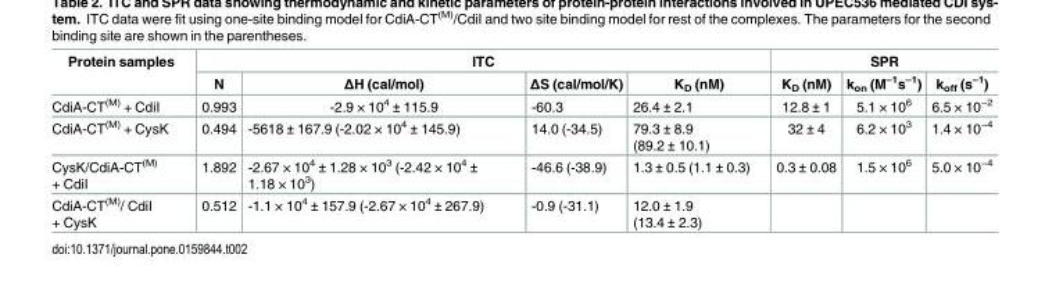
<table><thead><tr><td rowspan="2">Protein samples</td><td colspan="4">ITC</td><td colspan="3">SPR</td></tr><tr><td>N</td><td>ΔH (cal/mol)</td><td>ΔS (cal/mol/K)</td><td>K<sub>D</sub> (nM)</td><td>K<sub>D</sub> (nM)</td><td>k<sub>on</sub> (M<sup>–1</sup>s<sup>–1</sup>)</td><td>k<sub>off</sub> (s<sup>–1</sup>)</td></tr></thead><tbody><tr><td>CdiA-CT<sup>(M)</sup> + CdiI</td><td>0.993</td><td>-2.9 × 10<sup>4</sup> ± 115.9</td><td>-60.3</td><td>26.4 ± 2.1</td><td>12.8 ± 1</td><td>5.1 × 10<sup>6</sup></td><td>6.5 × 10<sup>−2</sup></td></tr><tr><td>CdiA-CT<sup>(M)</sup> + CysK</td><td>0.494</td><td>-5618 ± 167.9 (-2.02 × 10<sup>4</sup> ± 145.9)</td><td>14.0 (-34.5)</td><td>79.3 ± 8.9 (89.2 ± 10.1)</td><td>32 ± 4</td><td>6.2 × 10<sup>3</sup></td><td>1.4 × 10<sup>−4</sup></td></tr><tr><td>CysK/CdiA-CT<sup>(M)</sup> + CdiI</td><td>1.892</td><td>-2.67 × 10<sup>4</sup> ± 1.28 × 10<sup>3</sup> (-2.42 × 10<sup>4</sup> ± 1.18 × 10<sup>3</sup>)</td><td>-46.6 (-38.9)</td><td>1.3 ± 0.5 (1.1 ± 0.3)</td><td>0.3 ± 0.08</td><td>1.5 × 10<sup>6</sup></td><td>5.0 × 10<sup>−4</sup></td></tr><tr><td>CdiA-CT<sup>(M)</sup>/ CdiI + CysK</td><td>0.512</td><td>-1.1 × 10<sup>4</sup> ± 157.9 (-2.67 × 10<sup>4</sup> ± 267.9)</td><td>-0.9 (-31.1)</td><td>12.0 ± 1.9 (13.4 ± 2.3)</td><td></td><td></td><td></td></tr></tbody></table>